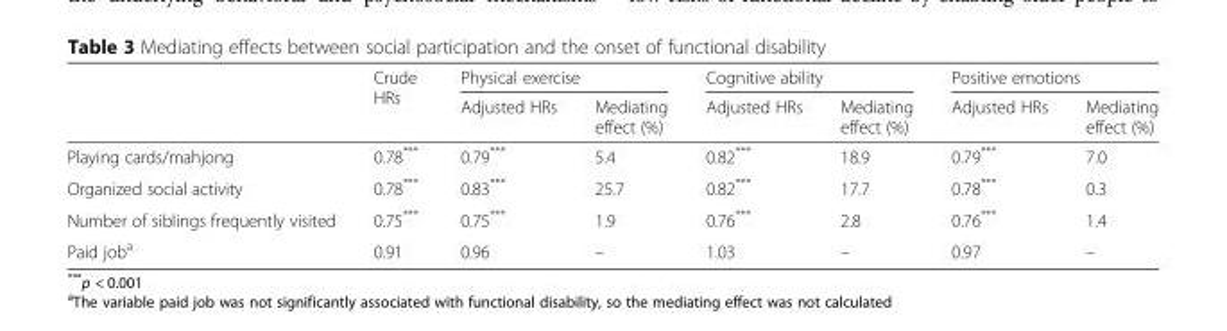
<table><thead><tr><td rowspan="2"></td><td rowspan="2">Crude HRs</td><td colspan="2">Physical exercise</td><td colspan="2">Cognitive ability</td><td colspan="2">Positive emotions</td></tr><tr><td>Adjusted HRs</td><td>Mediating effect (%)</td><td>Adjusted HRs</td><td>Mediating effect (%)</td><td>Adjusted HRs</td><td>Mediating effect (%)</td></tr></thead><tbody><tr><td>Playing cards/mahjong</td><td>0.78***</td><td>0.79***</td><td>5.4</td><td>0.82***</td><td>18.9</td><td>0.79***</td><td>7.0</td></tr><tr><td>Organized social activity</td><td>0.78***</td><td>0.83***</td><td>25.7</td><td>0.82***</td><td>17.7</td><td>0.78***</td><td>0.3</td></tr><tr><td>Number of siblings frequently visited</td><td>0.75***</td><td>0.75***</td><td>1.9</td><td>0.76***</td><td>2.8</td><td>0.76***</td><td>1.4</td></tr><tr><td>Paid job<sup>a</sup></td><td>0.91</td><td>0.96</td><td>–</td><td>1.03</td><td>–</td><td>0.97</td><td>–</td></tr></tbody></table>